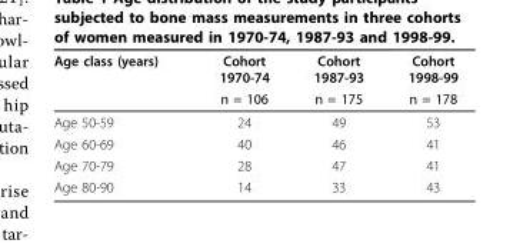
<table><thead><tr><td rowspan="2">Age class (years)</td><td rowspan="2">Cohort 1970-74 n = 106</td><td rowspan="2">Cohort 1987-93 n = 175</td><td rowspan="2">Cohort 1998-99 n = 178</td></tr><tr></tr></thead><tbody><tr><td>Age 50-59</td><td>24</td><td>49</td><td>53</td></tr><tr><td>Age 60-69</td><td>40</td><td>46</td><td>41</td></tr><tr><td>Age 70-79</td><td>28</td><td>47</td><td>41</td></tr><tr><td>Age 80-90</td><td>14</td><td>33</td><td>43</td></tr></tbody></table>